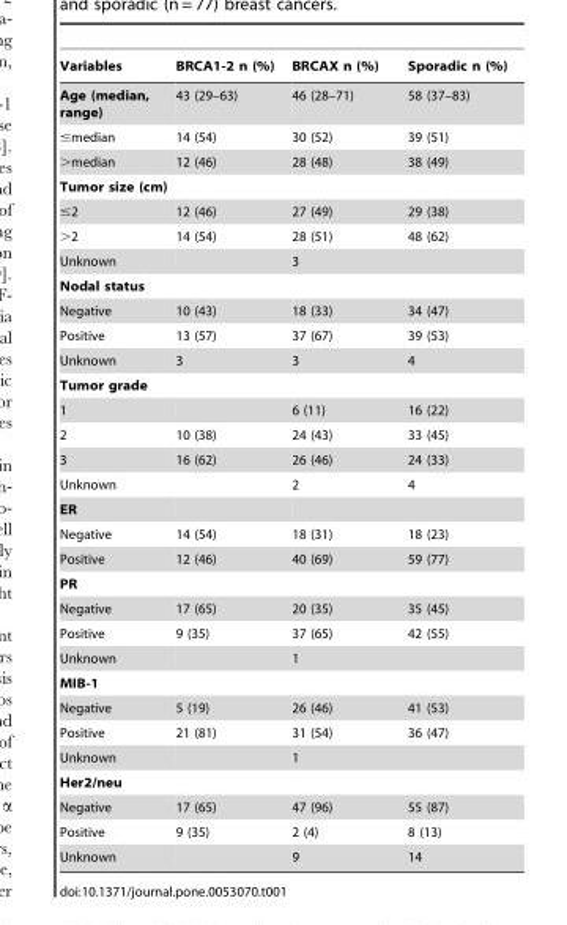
<table><thead><tr><td>Variables</td><td>BRCA1-2 n (%)</td><td>BRCAX n (%)</td><td>Sporadic n (%)</td></tr></thead><tbody><tr><td>Age (median, range)</td><td>43 (29–63)</td><td>46 (28–71)</td><td>58 (37–83)</td></tr><tr><td>≤median</td><td>14 (54)</td><td>30 (52)</td><td>39 (51)</td></tr><tr><td>&gt;median</td><td>12 (46)</td><td>28 (48)</td><td>38 (49)</td></tr><tr><td colspan="4">Tumor size (cm)</td></tr><tr><td>≤2</td><td>12 (46)</td><td>27 (49)</td><td>29 (38)</td></tr><tr><td>&gt;2</td><td>14 (54)</td><td>28 (51)</td><td>48 (62)</td></tr><tr><td>Unknown</td><td></td><td>3</td><td></td></tr><tr><td colspan="4">Nodal status</td></tr><tr><td>Negative</td><td>10 (43)</td><td>18 (33)</td><td>34 (47)</td></tr><tr><td>Positive</td><td>13 (57)</td><td>37 (67)</td><td>39 (53)</td></tr><tr><td>Unknown</td><td>3</td><td>3</td><td>4</td></tr><tr><td colspan="4">Tumor grade</td></tr><tr><td>1</td><td></td><td>6 (11)</td><td>16 (22)</td></tr><tr><td>2</td><td>10 (38)</td><td>24 (43)</td><td>33 (45)</td></tr><tr><td>3</td><td>16 (62)</td><td>26 (46)</td><td>24 (33)</td></tr><tr><td>Unknown</td><td></td><td>2</td><td>4</td></tr><tr><td colspan="4">ER</td></tr><tr><td>Negative</td><td>14 (54)</td><td>18 (31)</td><td>18 (23)</td></tr><tr><td>Positive</td><td>12 (46)</td><td>40 (69)</td><td>59 (77)</td></tr><tr><td colspan="4">PR</td></tr><tr><td>Negative</td><td>17 (65)</td><td>20 (35)</td><td>35 (45)</td></tr><tr><td>Positive</td><td>9 (35)</td><td>37 (65)</td><td>42 (55)</td></tr><tr><td>Unknown</td><td></td><td>1</td><td></td></tr><tr><td colspan="4">MIB-1</td></tr><tr><td>Negative</td><td>5 (19)</td><td>26 (46)</td><td>41 (53)</td></tr><tr><td>Positive</td><td>21 (81)</td><td>31 (54)</td><td>36 (47)</td></tr><tr><td>Unknown</td><td></td><td>1</td><td></td></tr><tr><td colspan="4">Her2/neu</td></tr><tr><td>Negative</td><td>17 (65)</td><td>47 (96)</td><td>55 (87)</td></tr><tr><td>Positive</td><td>9 (35)</td><td>2 (4)</td><td>8 (13)</td></tr><tr><td>Unknown</td><td></td><td>9</td><td>14</td></tr></tbody></table>